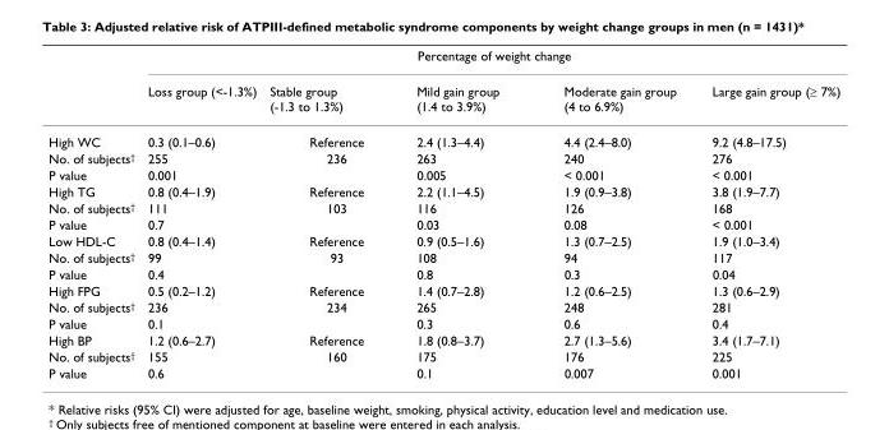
<table><thead><tr><td rowspan="2"></td><td colspan="5">Percentage of weight change</td></tr><tr><td>Loss group (&lt;-1.3%)</td><td>Stable group (-1.3 to 1.3%)</td><td>Mild gain group (1.4 to 3.9%)</td><td>Moderate gain group (4 to 6.9%)</td><td>Large gain group (≥ 7%)</td></tr></thead><tbody><tr><td>High WC</td><td>0.3 (0.1–0.6)</td><td>Reference</td><td>2.4 (1.3–4.4)</td><td>4.4 (2.4–8.0)</td><td>9.2 (4.8–17.5)</td></tr><tr><td>No. of subjects<sup>†</sup></td><td>255</td><td>236</td><td>263</td><td>240</td><td>276</td></tr><tr><td>P value</td><td>0.001</td><td></td><td>0.005</td><td>&lt; 0.001</td><td>&lt; 0.001</td></tr><tr><td>High TG</td><td>0.8 (0.4–1.9)</td><td>Reference</td><td>2.2 (1.1–4.5)</td><td>1.9 (0.9–3.8)</td><td>3.8 (1.9–7.7)</td></tr><tr><td>No. of subjects<sup>†</sup></td><td>111</td><td>103</td><td>116</td><td>126</td><td>168</td></tr><tr><td>P value</td><td>0.7</td><td></td><td>0.03</td><td>0.08</td><td>&lt; 0.001</td></tr><tr><td>Low HDL-C</td><td>0.8 (0.4–1.4)</td><td>Reference</td><td>0.9 (0.5–1.6)</td><td>1.3 (0.7–2.5)</td><td>1.9 (1.0–3.4)</td></tr><tr><td>No. of subjects<sup>†</sup></td><td>99</td><td>93</td><td>108</td><td>94</td><td>117</td></tr><tr><td>P value</td><td>0.4</td><td></td><td>0.8</td><td>0.3</td><td>0.04</td></tr><tr><td>High FPG</td><td>0.5 (0.2–1.2)</td><td>Reference</td><td>1.4 (0.7–2.8)</td><td>1.2 (0.6–2.5)</td><td>1.3 (0.6–2.9)</td></tr><tr><td>No. of subjects<sup>†</sup></td><td>236</td><td>234</td><td>265</td><td>248</td><td>281</td></tr><tr><td>P value</td><td>0.1</td><td></td><td>0.3</td><td>0.6</td><td>0.4</td></tr><tr><td>High BP</td><td>1.2 (0.6–2.7)</td><td>Reference</td><td>1.8 (0.8–3.7)</td><td>2.7 (1.3–5.6)</td><td>3.4 (1.7–7.1)</td></tr><tr><td>No. of subjects<sup>†</sup></td><td>155</td><td>160</td><td>175</td><td>176</td><td>225</td></tr><tr><td>P value</td><td>0.6</td><td></td><td>0.1</td><td>0.007</td><td>0.001</td></tr></tbody></table>